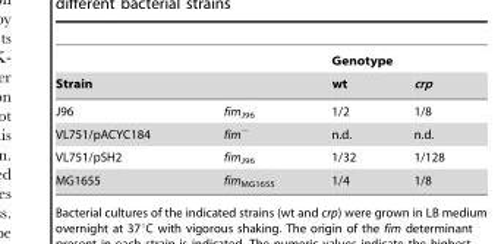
<table><thead><tr><td rowspan="2">Strain</td><td rowspan="2"></td><td colspan="2">Genotype</td></tr><tr><td>wt</td><td>crp</td></tr></thead><tbody><tr><td>J96</td><td>fim<sub>J96</sub></td><td>1/2</td><td>1/8</td></tr><tr><td>VL751/pACYC184</td><td>fim<sup>−</sup></td><td>n.d.</td><td>n.d.</td></tr><tr><td>VL751/pSH2</td><td>fim<sub>J96</sub></td><td>1/32</td><td>1/128</td></tr><tr><td>MG1655</td><td>fim<sub>MG1655</sub></td><td>1/4</td><td>1/8</td></tr></tbody></table>